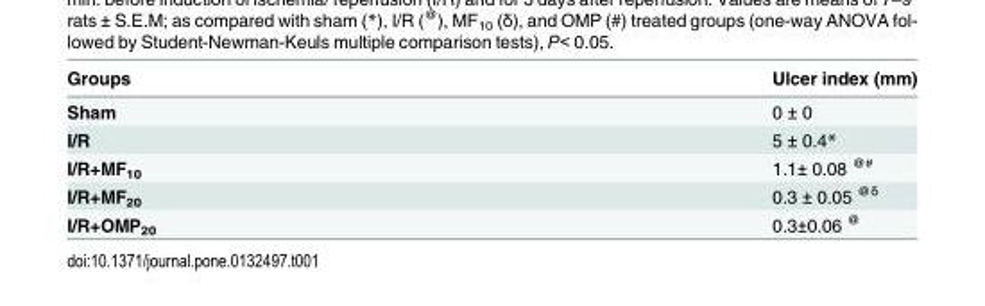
<table><thead><tr><td>Groups</td><td>Ulcer index (mm)</td></tr></thead><tbody><tr><td>Sham</td><td>0 ± 0</td></tr><tr><td>I/R</td><td>5 ± 0.4*</td></tr><tr><td>I/R+MF<sub>10</sub></td><td>1.1± 0.08 <sup>@#</sup></td></tr><tr><td>I/R+MF<sub>20</sub></td><td>0.3 ± 0.05 <sup>@δ</sup></td></tr><tr><td>I/R+OMP<sub>20</sub></td><td>0.3±0.06 <sup>@</sup></td></tr></tbody></table>